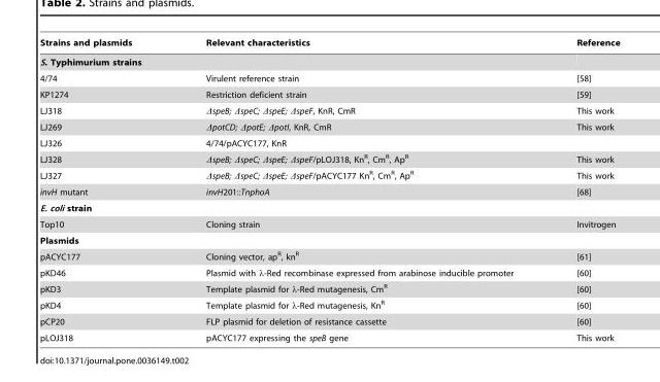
<table><thead><tr><td>Strains and plasmids</td><td>Relevant characteristics</td><td>Reference</td></tr></thead><tbody><tr><td colspan="3">S. Typhimurium strains</td></tr><tr><td>4/74</td><td>Virulent reference strain</td><td>[58]</td></tr><tr><td>KP1274</td><td>Restriction deficient strain</td><td>[59]</td></tr><tr><td>LJ318</td><td>ΔspeB; ΔspeC; ΔspeE; ΔspeF, KnR, CmR</td><td>This work</td></tr><tr><td>LJ269</td><td>ΔpotCD; ΔpotE; ΔpotI, KnR, CmR</td><td>This work</td></tr><tr><td>LJ326</td><td>4/74/pACYC177, KnR</td><td></td></tr><tr><td>LJ328</td><td>ΔspeB; ΔspeC; ΔspeE; ΔspeF/pLOJ318, Kn<sup>R</sup>, Cm<sup>R</sup>, Ap<sup>R</sup></td><td>This work</td></tr><tr><td>LJ327</td><td>ΔspeB; ΔspeC; ΔspeE; ΔspeF/pACYC177 Kn<sup>R</sup>, Cm<sup>R</sup>, Ap<sup>R</sup></td><td>This work</td></tr><tr><td>invH mutant</td><td>invH201::TnphoA</td><td>[68]</td></tr><tr><td colspan="3">E. coli strain</td></tr><tr><td>Top10</td><td>Cloning strain</td><td>Invitrogen</td></tr><tr><td colspan="3">Plasmids</td></tr><tr><td>pACYC177</td><td>Cloning vector, ap<sup>R</sup>, kn<sup>R</sup></td><td>[61]</td></tr><tr><td>pKD46</td><td>Plasmid with λ-Red recombinase expressed from arabinose inducible promoter</td><td>[60]</td></tr><tr><td>pKD3</td><td>Template plasmid for λ-Red mutagenesis, Cm<sup>R</sup></td><td>[60]</td></tr><tr><td>pKD4</td><td>Template plasmid for λ-Red mutagenesis, Kn<sup>R</sup></td><td>[60]</td></tr><tr><td>pCP20</td><td>FLP plasmid for deletion of resistance cassette</td><td>[60]</td></tr><tr><td>pLOJ318</td><td>pACYC177 expressing the speB gene</td><td>This work</td></tr></tbody></table>